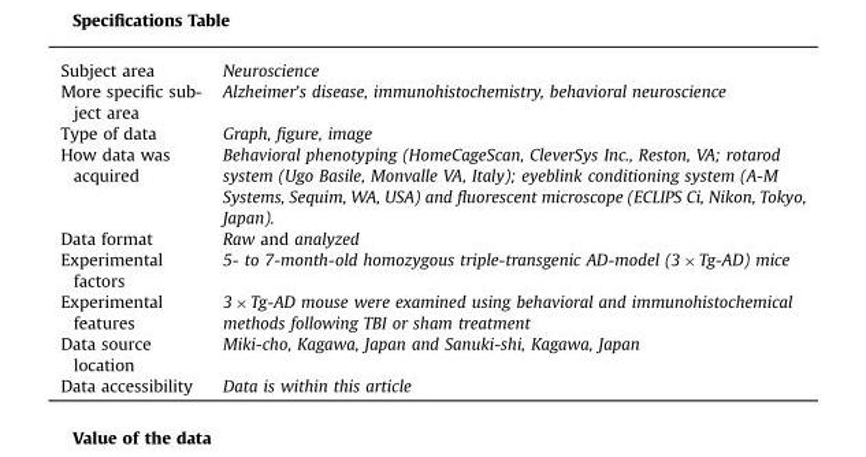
<table><tbody><tr><td>Subject area</td><td>Neuroscience</td></tr><tr><td>More specific sub- ject area</td><td>Alzheimer&#x27;s disease, immunohistochemistry, behavioral neuroscience</td></tr><tr><td>Type of data</td><td>Graph, figure, image</td></tr><tr><td>How data was acquired</td><td>Behavioral phenotyping (HomeCageScan, CleverSys Inc., Reston, VA; rotarod system (Ugo Basile, Monvalle VA, Italy); eyeblink conditioning system (A-M Systems, Sequim, WA, USA) and fluorescent microscope (ECLIPS Ci, Nikon, Tokyo, Japan).</td></tr><tr><td>Data format</td><td>Raw and analyzed</td></tr><tr><td>Experimental factors</td><td>5- to 7-month-old homozygous triple-transgenic AD-model (3 × Tg-AD) mice</td></tr><tr><td>Experimental features</td><td>3 × Tg-AD mouse were examined using behavioral and immunohistochemical methods following TBI or sham treatment</td></tr><tr><td>Data source location</td><td>Miki-cho, Kagawa, Japan and Sanuki-shi, Kagawa, Japan</td></tr><tr><td>Data accessibility</td><td>Data is within this article</td></tr></tbody></table>